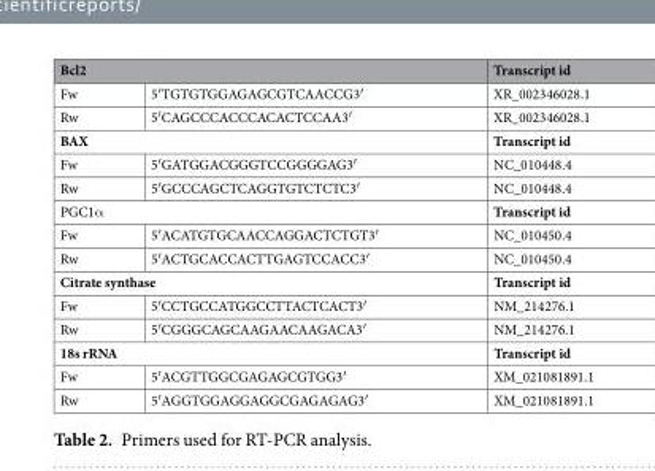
<table><thead><tr><td colspan="2">Bcl2</td><td rowspan="2">Transcript id XR_002346028.1</td></tr><tr><td>Fw</td><td>5′TGTGTGGAGAGCGTCAACCG3′</td></tr></thead><tbody><tr><td>Rw</td><td>5′CAGCCCACCCACACTCCAA3′</td><td>XR_002346028.1</td></tr><tr><td colspan="2">BAX</td><td>Transcript id</td></tr><tr><td>Fw</td><td>5′GATGGACGGGTCCGGGGAG3′</td><td>NC_010448.4</td></tr><tr><td>Rw</td><td>5′GCCCAGCTCAGGTGTCTCTC3′</td><td>NC_010448.4</td></tr><tr><td colspan="2">PGC1α</td><td>Transcript id</td></tr><tr><td>Fw</td><td>5′ACATGTGCAACCAGGACTCTGT3′</td><td>NC_010450.4</td></tr><tr><td>Rw</td><td>5′ACTGCACCACTTGAGTCCACC3′</td><td>NC_010450.4</td></tr><tr><td colspan="2">Citrate synthase</td><td>Transcript id</td></tr><tr><td>Fw</td><td>5′CCTGCCATGGCCTTACTCACT3′</td><td>NM_214276.1</td></tr><tr><td>Rw</td><td>5′CGGGCAGCAAGAACAAGACA3′</td><td>NM_214276.1</td></tr><tr><td colspan="2">18s rRNA</td><td>Transcript id</td></tr><tr><td>Fw</td><td>5′ACGTTGGCGAGAGCGTGG3′</td><td>XM_021081891.1</td></tr><tr><td>Rw</td><td>5′AGGTGGAGGAGGCGAGAGAG3′</td><td>XM_021081891.1</td></tr></tbody></table>